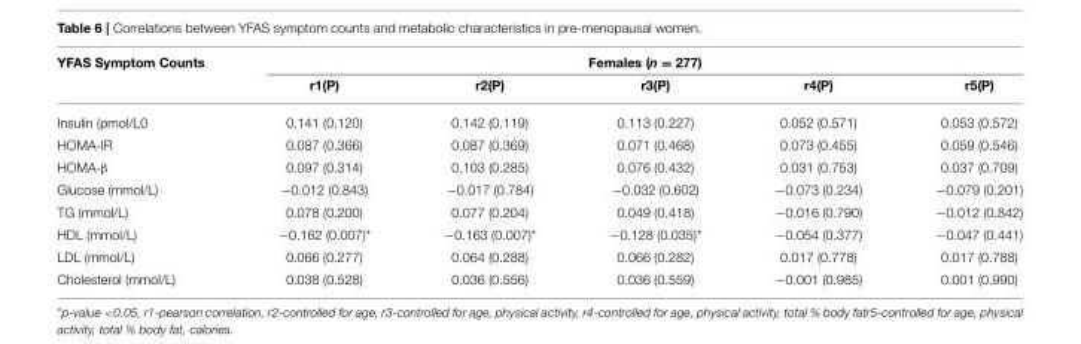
<table><thead><tr><td rowspan="2">YFAS Symptom Counts</td><td colspan="5">Females (n = 277)</td></tr><tr><td>r1(P)</td><td>r2(P)</td><td>r3(P)</td><td>r4(P)</td><td>r5(P)</td></tr></thead><tbody><tr><td>Insulin (pmol/L0</td><td>0.141 (0.120)</td><td>0.142 (0.119)</td><td>0.113 (0.227)</td><td>0.052 (0.571)</td><td>0.053 (0.572)</td></tr><tr><td>HOMA-IR</td><td>0.087 (0.366)</td><td>0.087 (0.369)</td><td>0.071 (0.468)</td><td>0.073 (0.455)</td><td>0.059 (0.546)</td></tr><tr><td>HOMA-β</td><td>0.097 (0.314)</td><td>0.103 (0.285)</td><td>0.076 (0.432)</td><td>0.031 (0.753)</td><td>0.037 (0.709)</td></tr><tr><td>Glucose (mmol/L)</td><td>−0.012 (0.843)</td><td>−0.017 (0.784)</td><td>−0.032 (0.602)</td><td>−0.073 (0.234)</td><td>−0.079 (0.201)</td></tr><tr><td>TG (mmol/L)</td><td>0.078 (0.200)</td><td>0.077 (0.204)</td><td>0.049 (0.418)</td><td>−0.016 (0.790)</td><td>−0.012 (0.842)</td></tr><tr><td>HDL (mmol/L)</td><td>−0.162 (0.007)*</td><td>−0.163 (0.007)*</td><td>−0.128 (0.035)*</td><td>−0.054 (0.377)</td><td>−0.047 (0.441)</td></tr><tr><td>LDL (mmol/L)</td><td>0.066 (0.277)</td><td>0.064 (0.288)</td><td>0.066 (0.282)</td><td>0.017 (0.778)</td><td>0.017 (0.788)</td></tr><tr><td>Cholesterol (mmol/L)</td><td>0.038 (0.528)</td><td>0.036 (0.556)</td><td>0.036 (0.559)</td><td>−0.001 (0.985)</td><td>0.001 (0.990)</td></tr></tbody></table>